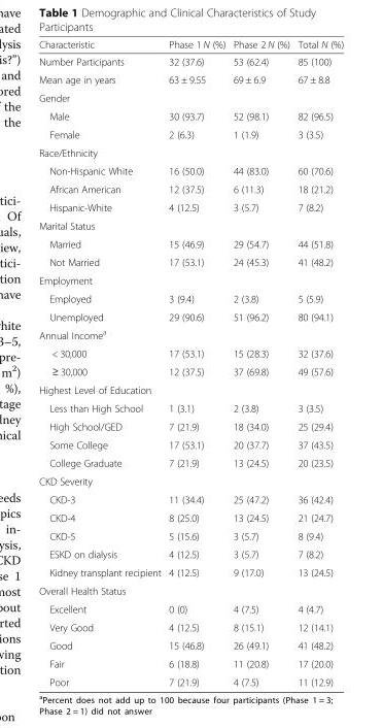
<table><thead><tr><td>Characteristic</td><td>Phase 1 N (%)</td><td>Phase 2 N (%)</td><td>Total N (%)</td></tr></thead><tbody><tr><td>Number Participants</td><td>32 (37.6)</td><td>53 (62.4)</td><td>85 (100)</td></tr><tr><td>Mean age in years</td><td>63 ± 9.55</td><td>69 ± 6.9</td><td>67 ± 8.8</td></tr><tr><td colspan="4">Gender</td></tr><tr><td>Male</td><td>30 (93.7)</td><td>52 (98.1)</td><td>82 (96.5)</td></tr><tr><td>Female</td><td>2 (6.3)</td><td>1 (1.9)</td><td>3 (3.5)</td></tr><tr><td colspan="4">Race/Ethnicity</td></tr><tr><td>Non-Hispanic White</td><td>16 (50.0)</td><td>44 (83.0)</td><td>60 (70.6)</td></tr><tr><td>African American</td><td>12 (37.5)</td><td>6 (11.3)</td><td>18 (21.2)</td></tr><tr><td>Hispanic-White</td><td>4 (12.5)</td><td>3 (5.7)</td><td>7 (8.2)</td></tr><tr><td colspan="4">Marital Status</td></tr><tr><td>Married</td><td>15 (46.9)</td><td>29 (54.7)</td><td>44 (51.8)</td></tr><tr><td>Not Married</td><td>17 (53.1)</td><td>24 (45.3)</td><td>41 (48.2)</td></tr><tr><td colspan="4">Employment</td></tr><tr><td>Employed</td><td>3 (9.4)</td><td>2 (3.8)</td><td>5 (5.9)</td></tr><tr><td>Unemployed</td><td>29 (90.6)</td><td>51 (96.2)</td><td>80 (94.1)</td></tr><tr><td colspan="4">Annual Income<sup>a</sup></td></tr><tr><td>&lt; 30,000</td><td>17 (53.1)</td><td>15 (28.3)</td><td>32 (37.6)</td></tr><tr><td>≥ 30,000</td><td>12 (37.5)</td><td>37 (69.8)</td><td>49 (57.6)</td></tr><tr><td colspan="4">Highest Level of Education</td></tr><tr><td>Less than High School</td><td>1 (3.1)</td><td>2 (3.8)</td><td>3 (3.5)</td></tr><tr><td>High School/GED</td><td>7 (21.9)</td><td>18 (34.0)</td><td>25 (29.4)</td></tr><tr><td>Some College</td><td>17 (53.1)</td><td>20 (37.7)</td><td>37 (43.5)</td></tr><tr><td>College Graduate</td><td>7 (21.9)</td><td>13 (24.5)</td><td>20 (23.5)</td></tr><tr><td colspan="4">CKD Severity</td></tr><tr><td>CKD-3</td><td>11 (34.4)</td><td>25 (47.2)</td><td>36 (42.4)</td></tr><tr><td>CKD-4</td><td>8 (25.0)</td><td>13 (24.5)</td><td>21 (24.7)</td></tr><tr><td>CKD-5</td><td>5 (15.6)</td><td>3 (5.7)</td><td>8 (9.4)</td></tr><tr><td>ESKD on dialysis</td><td>4 (12.5)</td><td>3 (5.7)</td><td>7 (8.2)</td></tr><tr><td>Kidney transplant recipient</td><td>4 (12.5)</td><td>9 (17.0)</td><td>13 (24.5)</td></tr><tr><td colspan="4">Overall Health Status</td></tr><tr><td>Excellent</td><td>0 (0)</td><td>4 (7.5)</td><td>4 (4.7)</td></tr><tr><td>Very Good</td><td>4 (12.5)</td><td>8 (15.1)</td><td>12 (14.1)</td></tr><tr><td>Good</td><td>15 (46.8)</td><td>26 (49.1)</td><td>41 (48.2)</td></tr><tr><td>Fair</td><td>6 (18.8)</td><td>11 (20.8)</td><td>17 (20.0)</td></tr><tr><td>Poor</td><td>7 (21.9)</td><td>4 (7.5)</td><td>11 (12.9)</td></tr></tbody></table>